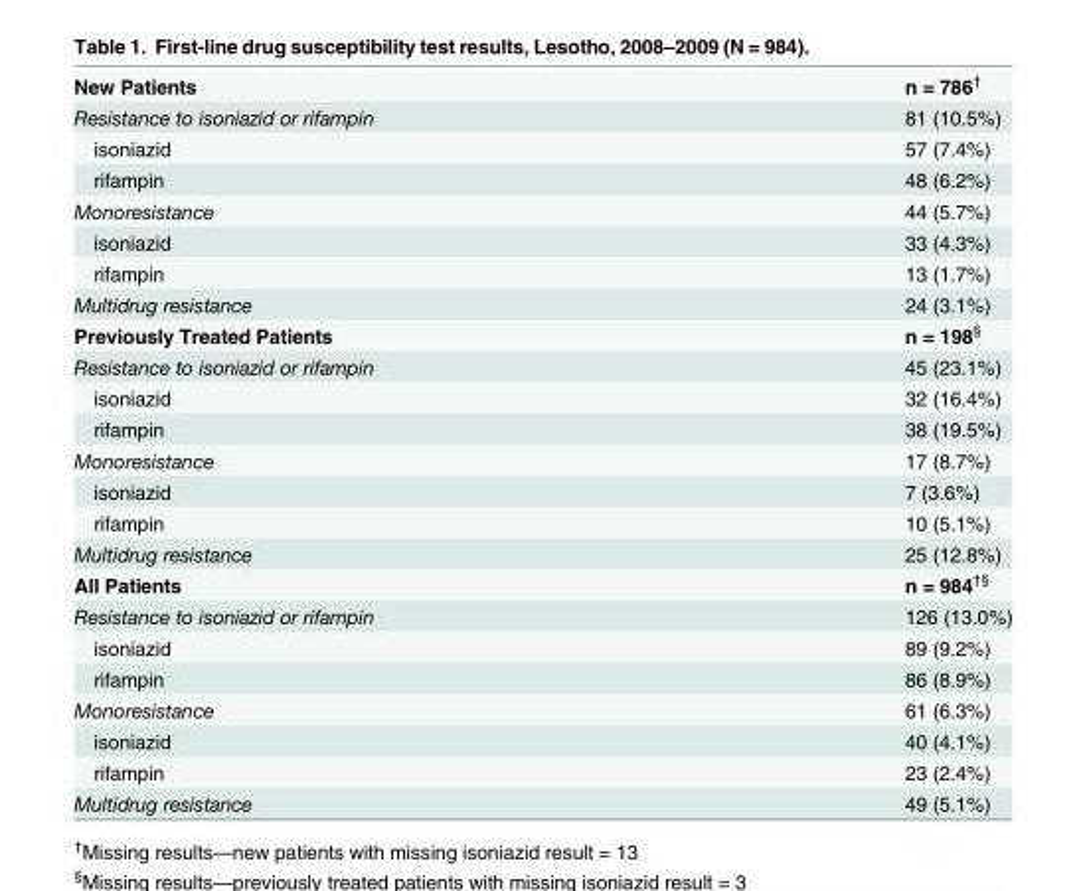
<table><tbody><tr><td>New Patients</td><td>n = 786<sup>†</sup></td></tr><tr><td>Resistance to isoniazid or rifampin</td><td>81 (10.5%)</td></tr><tr><td>isoniazid</td><td>57 (7.4%)</td></tr><tr><td>rifampin</td><td>48 (6.2%)</td></tr><tr><td>Monoresistance</td><td>44 (5.7%)</td></tr><tr><td>isoniazid</td><td>33 (4.3%)</td></tr><tr><td>rifampin</td><td>13 (1.7%)</td></tr><tr><td>Multidrug resistance</td><td>24 (3.1%)</td></tr><tr><td>Previously Treated Patients</td><td>n = 198<sup>§</sup></td></tr><tr><td>Resistance to isoniazid or rifampin</td><td>45 (23.1%)</td></tr><tr><td>isoniazid</td><td>32 (16.4%)</td></tr><tr><td>rifampin</td><td>38 (19.5%)</td></tr><tr><td>Monoresistance</td><td>17 (8.7%)</td></tr><tr><td>isoniazid</td><td>7 (3.6%)</td></tr><tr><td>rifampin</td><td>10 (5.1%)</td></tr><tr><td>Multidrug resistance</td><td>25 (12.8%)</td></tr><tr><td>All Patients</td><td>n = 984<sup>†§</sup></td></tr><tr><td>Resistance to isoniazid or rifampin</td><td>126 (13.0%)</td></tr><tr><td>isoniazid</td><td>89 (9.2%)</td></tr><tr><td>rifampin</td><td>86 (8.9%)</td></tr><tr><td>Monoresistance</td><td>61 (6.3%)</td></tr><tr><td>isoniazid</td><td>40 (4.1%)</td></tr><tr><td>rifampin</td><td>23 (2.4%)</td></tr><tr><td>Multidrug resistance</td><td>49 (5.1%)</td></tr></tbody></table>